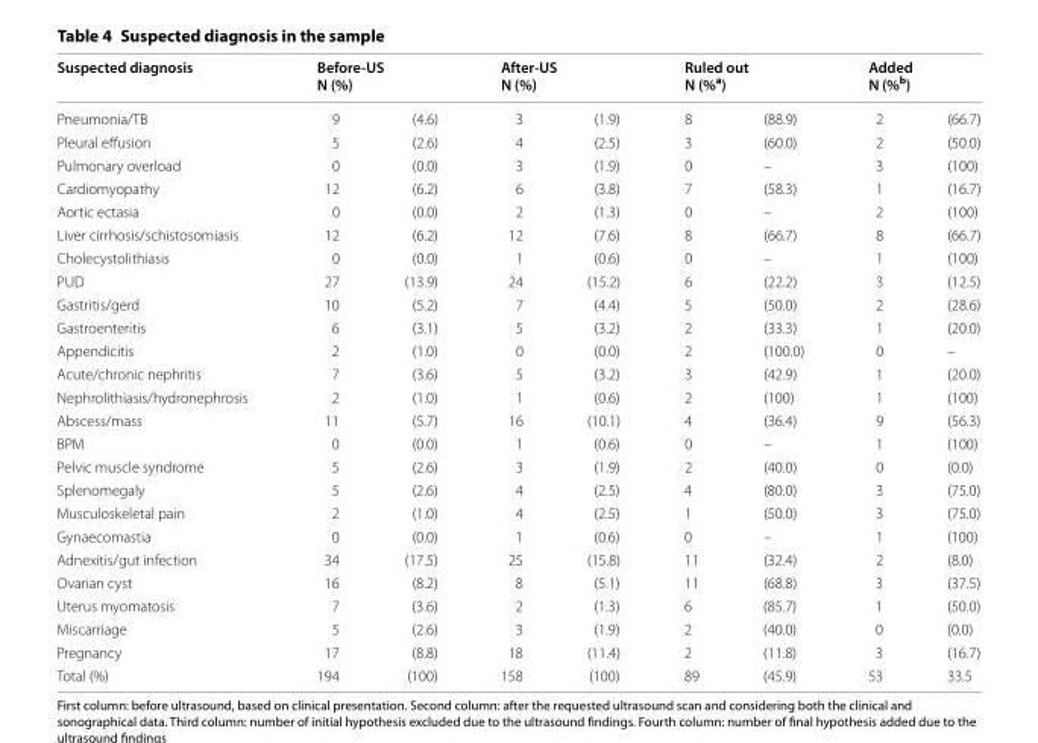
<table><thead><tr><td rowspan="2">Suspected diagnosis Pneumonia/TB</td><td colspan="2">Before-US N (%)</td><td colspan="2">After-US N (%)</td><td colspan="2">Ruled out N (%<sup>a</sup>)</td><td colspan="2">Added N (%<sup>b</sup>)</td></tr><tr><td>9</td><td>(4.6)</td><td>3</td><td>(1.9)</td><td>8</td><td>(88.9)</td><td>2</td><td>(66.7)</td></tr></thead><tbody><tr><td>Pleural effusion</td><td>5</td><td>(2.6)</td><td>4</td><td>(2.5)</td><td>3</td><td>(60.0)</td><td>2</td><td>(50.0)</td></tr><tr><td>Pulmonary overload</td><td>0</td><td>(0.0)</td><td>3</td><td>(1.9)</td><td>0</td><td>–</td><td>3</td><td>(100)</td></tr><tr><td>Cardiomyopathy</td><td>12</td><td>(6.2)</td><td>6</td><td>(3.8)</td><td>7</td><td>(58.3)</td><td>1</td><td>(16.7)</td></tr><tr><td>Aortic ectasia</td><td>0</td><td>(0.0)</td><td>2</td><td>(1.3)</td><td>0</td><td>–</td><td>2</td><td>(100)</td></tr><tr><td>Liver cirrhosis/schistosomiasis</td><td>12</td><td>(6.2)</td><td>12</td><td>(7.6)</td><td>8</td><td>(66.7)</td><td>8</td><td>(66.7)</td></tr><tr><td>Cholecystolithiasis</td><td>0</td><td>(0.0)</td><td>1</td><td>(0.6)</td><td>0</td><td>–</td><td>1</td><td>(100)</td></tr><tr><td>PUD</td><td>27</td><td>(13.9)</td><td>24</td><td>(15.2)</td><td>6</td><td>(22.2)</td><td>3</td><td>(12.5)</td></tr><tr><td>Gastritis/gerd</td><td>10</td><td>(5.2)</td><td>7</td><td>(4.4)</td><td>5</td><td>(50.0)</td><td>2</td><td>(28.6)</td></tr><tr><td>Gastroenteritis</td><td>6</td><td>(3.1)</td><td>5</td><td>(3.2)</td><td>2</td><td>(33.3)</td><td>1</td><td>(20.0)</td></tr><tr><td>Appendicitis</td><td>2</td><td>(1.0)</td><td>0</td><td>(0.0)</td><td>2</td><td>(100.0)</td><td>0</td><td>–</td></tr><tr><td>Acute/chronic nephritis</td><td>7</td><td>(3.6)</td><td>5</td><td>(3.2)</td><td>3</td><td>(42.9)</td><td>1</td><td>(20.0)</td></tr><tr><td>Nephrolithiasis/hydronephrosis</td><td>2</td><td>(1.0)</td><td>1</td><td>(0.6)</td><td>2</td><td>(100)</td><td>1</td><td>(100)</td></tr><tr><td>Abscess/mass</td><td>11</td><td>(5.7)</td><td>16</td><td>(10.1)</td><td>4</td><td>(36.4)</td><td>9</td><td>(56.3)</td></tr><tr><td>BPM</td><td>0</td><td>(0.0)</td><td>1</td><td>(0.6)</td><td>0</td><td>–</td><td>1</td><td>(100)</td></tr><tr><td>Pelvic muscle syndrome</td><td>5</td><td>(2.6)</td><td>3</td><td>(1.9)</td><td>2</td><td>(40.0)</td><td>0</td><td>(0.0)</td></tr><tr><td>Splenomegaly</td><td>5</td><td>(2.6)</td><td>4</td><td>(2.5)</td><td>4</td><td>(80.0)</td><td>3</td><td>(75.0)</td></tr><tr><td>Musculoskeletal pain</td><td>2</td><td>(1.0)</td><td>4</td><td>(2.5)</td><td>1</td><td>(50.0)</td><td>3</td><td>(75.0)</td></tr><tr><td>Gynaecomastia</td><td>0</td><td>(0.0)</td><td>1</td><td>(0.6)</td><td>0</td><td>–</td><td>1</td><td>(100)</td></tr><tr><td>Adnexitis/gut infection</td><td>34</td><td>(17.5)</td><td>25</td><td>(15.8)</td><td>11</td><td>(32.4)</td><td>2</td><td>(8.0)</td></tr><tr><td>Ovarian cyst</td><td>16</td><td>(8.2)</td><td>8</td><td>(5.1)</td><td>11</td><td>(68.8)</td><td>3</td><td>(37.5)</td></tr><tr><td>Uterus myomatosis</td><td>7</td><td>(3.6)</td><td>2</td><td>(1.3)</td><td>6</td><td>(85.7)</td><td>1</td><td>(50.0)</td></tr><tr><td>Miscarriage</td><td>5</td><td>(2.6)</td><td>3</td><td>(1.9)</td><td>2</td><td>(40.0)</td><td>0</td><td>(0.0)</td></tr><tr><td>Pregnancy</td><td>17</td><td>(8.8)</td><td>18</td><td>(11.4)</td><td>2</td><td>(11.8)</td><td>3</td><td>(16.7)</td></tr><tr><td>Total (%)</td><td>194</td><td>(100)</td><td>158</td><td>(100)</td><td>89</td><td>(45.9)</td><td>53</td><td>33.5</td></tr></tbody></table>